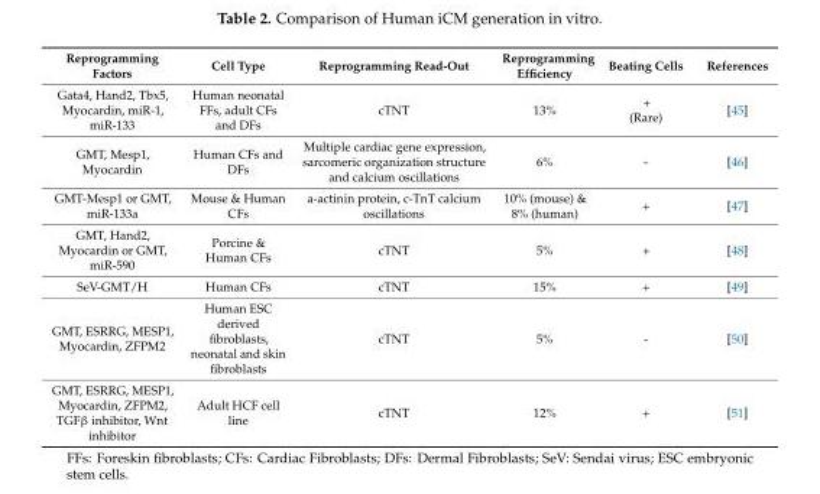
<table><thead><tr><td>Reprogramming Factors</td><td>Cell Type</td><td>Reprogramming Read-Out</td><td>Reprogramming Efficiency</td><td>Beating Cells</td><td>References</td></tr></thead><tbody><tr><td>Gata4, Hand2, Tbx5, Myocardin, miR-1, miR-133</td><td>Human neonatal FFs, adult CFs and DFs</td><td>cTNT</td><td>13%</td><td>+ (Rare)</td><td>[45]</td></tr><tr><td>GMT, Mesp1, Myocardin</td><td>Human CFs and DFs</td><td>Multiple cardiac gene expression, sarcomeric organization structure and calcium oscillations</td><td>6%</td><td>-</td><td>[46]</td></tr><tr><td>GMT-Mesp1 or GMT, miR-133a</td><td>Mouse &amp; Human CFs</td><td>a-actinin protein, c-TnT calcium oscillations</td><td>10% (mouse) &amp; 8% (human)</td><td>+</td><td>[47]</td></tr><tr><td>GMT, Hand2, Myocardin or GMT, miR-590</td><td>Porcine &amp; Human CFs</td><td>cTNT</td><td>5%</td><td>+</td><td>[48]</td></tr><tr><td>SeV-GMT/H</td><td>Human CFs</td><td>cTNT</td><td>15%</td><td>+</td><td>[49]</td></tr><tr><td>GMT, ESRRG, MESP1, Myocardin, ZFPM2</td><td>Human ESC derived fibroblasts, neonatal and skin fibroblasts</td><td>cTNT</td><td>5%</td><td>-</td><td>[50]</td></tr><tr><td>GMT, ESRRG, MESP1, Myocardin, ZFPM2, TGFβ inhibitor, Wnt inhibitor</td><td>Adult HCF cell line</td><td>cTNT</td><td>12%</td><td>+</td><td>[51]</td></tr></tbody></table>